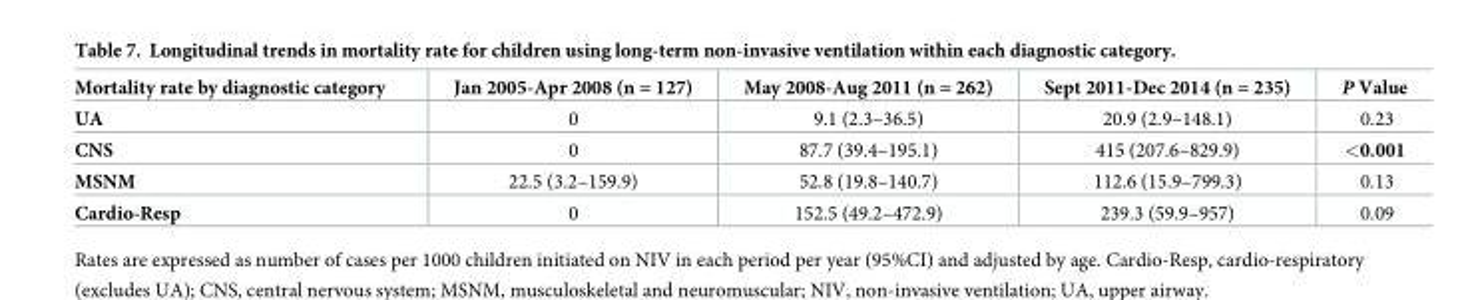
<table><thead><tr><td>Mortality rate by diagnostic category</td><td>Jan 2005-Apr 2008 (n = 127)</td><td>May 2008-Aug 2011 (n = 262)</td><td>Sept 2011-Dec 2014 (n = 235)</td><td>P Value</td></tr></thead><tbody><tr><td>UA</td><td>0</td><td>9.1 (2.3–36.5)</td><td>20.9 (2.9–148.1)</td><td>0.23</td></tr><tr><td>CNS</td><td>0</td><td>87.7 (39.4–195.1)</td><td>415 (207.6–829.9)</td><td>&lt;0.001</td></tr><tr><td>MSNM</td><td>22.5 (3.2–159.9)</td><td>52.8 (19.8–140.7)</td><td>112.6 (15.9–799.3)</td><td>0.13</td></tr><tr><td>Cardio-Resp</td><td>0</td><td>152.5 (49.2–472.9)</td><td>239.3 (59.9–957)</td><td>0.09</td></tr></tbody></table>